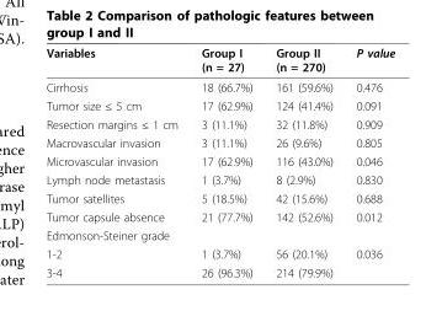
<table><thead><tr><td>Variables</td><td>Group I (n = 27)</td><td>Group II (n = 270)</td><td>P value</td></tr></thead><tbody><tr><td>Cirrhosis</td><td>18 (66.7%)</td><td>161 (59.6%)</td><td>0.476</td></tr><tr><td>Tumor size ≤ 5 cm</td><td>17 (62.9%)</td><td>124 (41.4%)</td><td>0.091</td></tr><tr><td>Resection margins ≤ 1 cm</td><td>3 (11.1%)</td><td>32 (11.8%)</td><td>0.909</td></tr><tr><td>Macrovascular invasion</td><td>3 (11.1%)</td><td>26 (9.6%)</td><td>0.805</td></tr><tr><td>Microvascular invasion</td><td>17 (62.9%)</td><td>116 (43.0%)</td><td>0.046</td></tr><tr><td>Lymph node metastasis</td><td>1 (3.7%)</td><td>8 (2.9%)</td><td>0.830</td></tr><tr><td>Tumor satellites</td><td>5 (18.5%)</td><td>42 (15.6%)</td><td>0.688</td></tr><tr><td>Tumor capsule absence</td><td>21 (77.7%)</td><td>142 (52.6%)</td><td>0.012</td></tr><tr><td colspan="4">Edmonson-Steiner grade</td></tr><tr><td>1-2</td><td>1 (3.7%)</td><td>56 (20.1%)</td><td>0.036</td></tr><tr><td>3-4</td><td>26 (96.3%)</td><td>214 (79.9%)</td><td></td></tr></tbody></table>